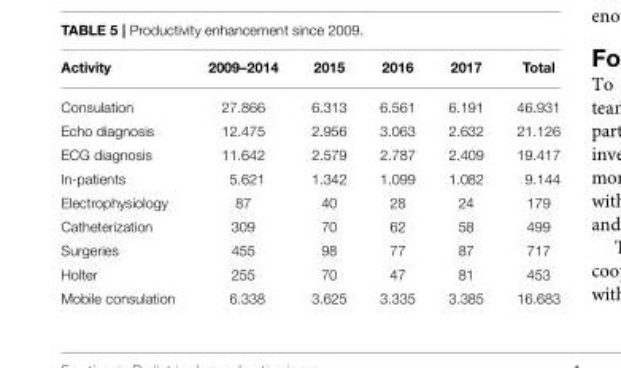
<table><thead><tr><td>Activity</td><td>2009–2014</td><td>2015</td><td>2016</td><td>2017</td><td>Total</td></tr></thead><tbody><tr><td>Consulation</td><td>27.866</td><td>6.313</td><td>6.561</td><td>6.191</td><td>46.931</td></tr><tr><td>Echo diagnosis</td><td>12.475</td><td>2.956</td><td>3.063</td><td>2.632</td><td>21.126</td></tr><tr><td>ECG diagnosis</td><td>11.642</td><td>2.579</td><td>2.787</td><td>2.409</td><td>19.417</td></tr><tr><td>In-patients</td><td>5.621</td><td>1.342</td><td>1.099</td><td>1.082</td><td>9.144</td></tr><tr><td>Electrophysiology</td><td>87</td><td>40</td><td>28</td><td>24</td><td>179</td></tr><tr><td>Catheterization</td><td>309</td><td>70</td><td>62</td><td>58</td><td>499</td></tr><tr><td>Surgeries</td><td>455</td><td>98</td><td>77</td><td>87</td><td>717</td></tr><tr><td>Holter</td><td>255</td><td>70</td><td>47</td><td>81</td><td>453</td></tr><tr><td>Mobile consulation</td><td>6.338</td><td>3.625</td><td>3.335</td><td>3.385</td><td>16.683</td></tr></tbody></table>